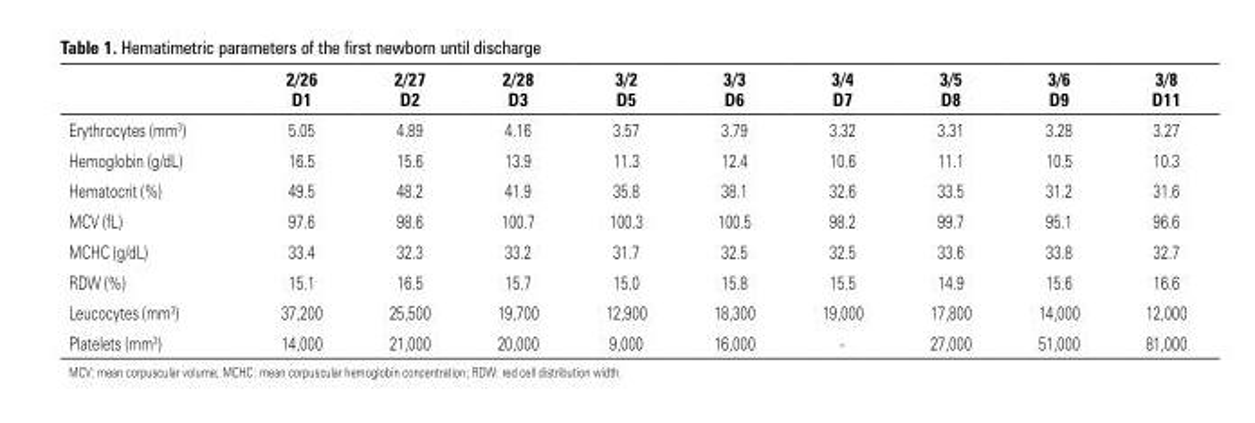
<table><thead><tr><td></td><td>2/26 D1</td><td>2/27 D2</td><td>2/28 D3</td><td>3/2 D5</td><td>3/3 D6</td><td>3/4 D7</td><td>3/5 D8</td><td>3/6 D9</td><td>3/8 D11</td></tr></thead><tbody><tr><td>Erythrocytes (mm<sup>3</sup>)</td><td>5.05</td><td>4.89</td><td>4.16</td><td>3.57</td><td>3.79</td><td>3.32</td><td>3.31</td><td>3.28</td><td>3.27</td></tr><tr><td>Hemoglobin (g/dL)</td><td>16.5</td><td>15.6</td><td>13.9</td><td>11.3</td><td>12.4</td><td>10.6</td><td>11.1</td><td>10.5</td><td>10.3</td></tr><tr><td>Hematocrit (%)</td><td>49.5</td><td>48.2</td><td>41.9</td><td>35.8</td><td>38.1</td><td>32.6</td><td>33.5</td><td>31.2</td><td>31.6</td></tr><tr><td>MCV (fL)</td><td>97.6</td><td>98.6</td><td>100.7</td><td>100.3</td><td>100.5</td><td>98.2</td><td>99.7</td><td>95.1</td><td>96.6</td></tr><tr><td>MCHC (g/dL)</td><td>33.4</td><td>32.3</td><td>33.2</td><td>31.7</td><td>32.5</td><td>32.5</td><td>33.6</td><td>33.8</td><td>32.7</td></tr><tr><td>RDW (%)</td><td>15.1</td><td>16.5</td><td>15.7</td><td>15.0</td><td>15.8</td><td>15.5</td><td>14.9</td><td>15.6</td><td>16.6</td></tr><tr><td>Leucocytes (mm<sup>3</sup>)</td><td>37,200</td><td>25,500</td><td>19,700</td><td>12,900</td><td>18,300</td><td>19,000</td><td>17,800</td><td>14,000</td><td>12,000</td></tr><tr><td>Platelets (mm<sup>3</sup>)</td><td>14,000</td><td>21,000</td><td>20,000</td><td>9,000</td><td>16,000</td><td>-</td><td>27,000</td><td>51,000</td><td>81,000</td></tr></tbody></table>